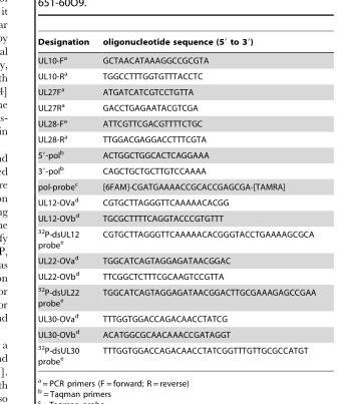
<table><thead><tr><td>Designation</td><td>oligonucleotide sequence (5′ to 3′)</td></tr></thead><tbody><tr><td>UL10-F<sup>a</sup></td><td>GCTAACATAAAGGCCGCGTA</td></tr><tr><td>UL10-R<sup>a</sup></td><td>TGGCCTTTGGTGTTTACCTC</td></tr><tr><td>UL27F<sup>a</sup></td><td>ATGATCATCGTCCTGTTA</td></tr><tr><td>UL27R<sup>a</sup></td><td>GACCTGAGAATACGTCGA</td></tr><tr><td>UL28-F<sup>a</sup></td><td>ATTCGTTCGACGTTTTCTGC</td></tr><tr><td>UL28-R<sup>a</sup></td><td>TTGGACGAGGACCTTTCGTA</td></tr><tr><td>5′-pol<sup>b</sup></td><td>ACTGGCTGGCACTCAGGAAA</td></tr><tr><td>3′-pol<sup>b</sup></td><td>CAGCTGCTGCTTGTCCAAAA</td></tr><tr><td>pol-probe<sup>c</sup></td><td>[6FAM]-CGATGAAAACCGCACCGAGCGA-[TAMRA]</td></tr><tr><td>UL12-OVa<sup>d</sup></td><td>CGTGCTTAGGGTTCAAAAACACGG</td></tr><tr><td>UL12-OVb<sup>d</sup></td><td>TGCGCTTTTCAGGTACCCGTGTTT</td></tr><tr><td><sup>32</sup>P-dsUL12 probe<sup>e</sup></td><td>CGTGCTTAGGGTTCAAAAACACGGGTACCTGAAAAGCGCA</td></tr><tr><td>UL22-OVa<sup>d</sup></td><td>TGGCATCAGTAGGAGATAACGGAC</td></tr><tr><td>UL22-OVb<sup>d</sup></td><td>TTCGGCTCTTTCGCAAGTCCGTTA</td></tr><tr><td><sup>32</sup>P-dsUL22 probe<sup>e</sup></td><td>TGGCATCAGTAGGAGATAACGGACTTGCGAAAGAGCCGAA</td></tr><tr><td>UL30-OVa<sup>d</sup></td><td>TTTGGTGGACCAGACAACCTATCG</td></tr><tr><td>UL30-OVb<sup>d</sup></td><td>ACATGGCGCAACAAACCGATAGGT</td></tr><tr><td><sup>32</sup>P-dsUL30 probe<sup>e</sup></td><td>TTTGGTGGACCAGACAACCTATCGGTTTGTTGCGCCATGT</td></tr></tbody></table>